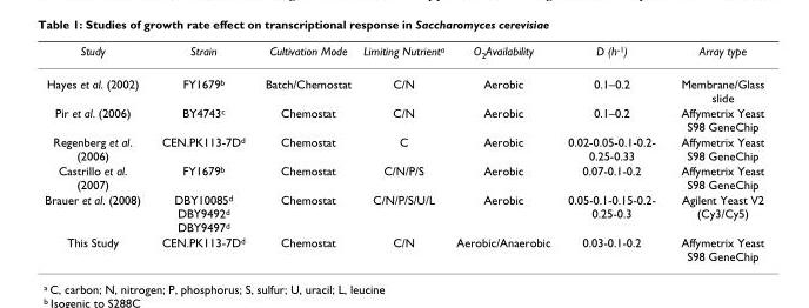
<table><thead><tr><td>Study</td><td>Strain</td><td>Cultivation Mode</td><td>Limiting Nutrient<sup>a</sup></td><td>O<sub>2</sub>Availability</td><td>D (h<sup>-1</sup>)</td><td>Array type</td></tr></thead><tbody><tr><td>Hayes et al. (2002)</td><td>FY1679<sup>b</sup></td><td>Batch/Chemostat</td><td>C/N</td><td>Aerobic</td><td>0.1–0.2</td><td>Membrane/Glass slide</td></tr><tr><td>Pir et al. (2006)</td><td>BY4743<sup>c</sup></td><td>Chemostat</td><td>C/N</td><td>Aerobic</td><td>0.1–0.2</td><td>Affymetrix Yeast S98 GeneChip</td></tr><tr><td>Regenberg et al. (2006)</td><td>CEN.PK113-7D<sup>d</sup></td><td>Chemostat</td><td>C</td><td>Aerobic</td><td>0.02-0.05-0.1-0.2- 0.25-0.33</td><td>Affymetrix Yeast S98 GeneChip</td></tr><tr><td>Castrillo et al. (2007)</td><td>FY1679<sup>b</sup></td><td>Chemostat</td><td>C/N/P/S</td><td>Aerobic</td><td>0.07-0.1-0.2</td><td>Affymetrix Yeast S98 GeneChip</td></tr><tr><td>Brauer et al. (2008)</td><td>DBY10085<sup>d</sup> DBY9492<sup>d</sup> DBY9497<sup>d</sup></td><td>Chemostat</td><td>C/N/P/S/U/L</td><td>Aerobic</td><td>0.05-0.1-0.15-0.2- 0.25-0.3</td><td>Agilent Yeast V2 (Cy3/Cy5)</td></tr><tr><td>This Study</td><td>CEN.PK113-7D<sup>d</sup></td><td>Chemostat</td><td>C/N</td><td>Aerobic/Anaerobic</td><td>0.03-0.1-0.2</td><td>Affymetrix Yeast S98 GeneChip</td></tr></tbody></table>